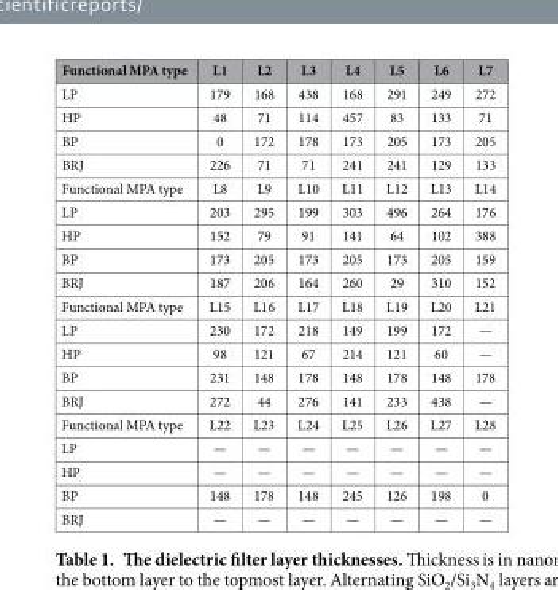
<table><thead><tr><td>Functional MPA type</td><td>L1</td><td>L2</td><td>L3</td><td>L4</td><td>L5</td><td>L6</td><td>L7</td></tr></thead><tbody><tr><td>LP</td><td>179</td><td>168</td><td>438</td><td>168</td><td>291</td><td>249</td><td>272</td></tr><tr><td>HP</td><td>48</td><td>71</td><td>114</td><td>457</td><td>83</td><td>133</td><td>71</td></tr><tr><td>BP</td><td>0</td><td>172</td><td>178</td><td>173</td><td>205</td><td>173</td><td>205</td></tr><tr><td>BRJ</td><td>226</td><td>71</td><td>71</td><td>241</td><td>241</td><td>129</td><td>133</td></tr><tr><td>Functional MPA type</td><td>L8</td><td>L9</td><td>L10</td><td>L11</td><td>L12</td><td>L13</td><td>L14</td></tr><tr><td>LP</td><td>203</td><td>295</td><td>199</td><td>303</td><td>496</td><td>264</td><td>176</td></tr><tr><td>HP</td><td>152</td><td>79</td><td>91</td><td>141</td><td>64</td><td>102</td><td>388</td></tr><tr><td>BP</td><td>173</td><td>205</td><td>173</td><td>205</td><td>173</td><td>205</td><td>159</td></tr><tr><td>BRJ</td><td>187</td><td>206</td><td>164</td><td>260</td><td>29</td><td>310</td><td>152</td></tr><tr><td>Functional MPA type</td><td>L15</td><td>L16</td><td>L17</td><td>L18</td><td>L19</td><td>L20</td><td>L21</td></tr><tr><td>LP</td><td>230</td><td>172</td><td>218</td><td>149</td><td>199</td><td>172</td><td>—</td></tr><tr><td>HP</td><td>98</td><td>121</td><td>67</td><td>214</td><td>121</td><td>60</td><td>—</td></tr><tr><td>BP</td><td>231</td><td>148</td><td>178</td><td>148</td><td>178</td><td>148</td><td>178</td></tr><tr><td>BRJ</td><td>272</td><td>44</td><td>276</td><td>141</td><td>233</td><td>438</td><td>—</td></tr><tr><td>Functional MPA type</td><td>L22</td><td>L23</td><td>L24</td><td>L25</td><td>L26</td><td>L27</td><td>L28</td></tr><tr><td>LP</td><td>—</td><td>—</td><td>—</td><td>—</td><td>—</td><td>—</td><td>—</td></tr><tr><td>HP</td><td>—</td><td>—</td><td>—</td><td>—</td><td>—</td><td>—</td><td>—</td></tr><tr><td>BP</td><td>148</td><td>178</td><td>148</td><td>245</td><td>126</td><td>198</td><td>0</td></tr><tr><td>BRJ</td><td>—</td><td>—</td><td>—</td><td>—</td><td>—</td><td>—</td><td>—</td></tr></tbody></table>